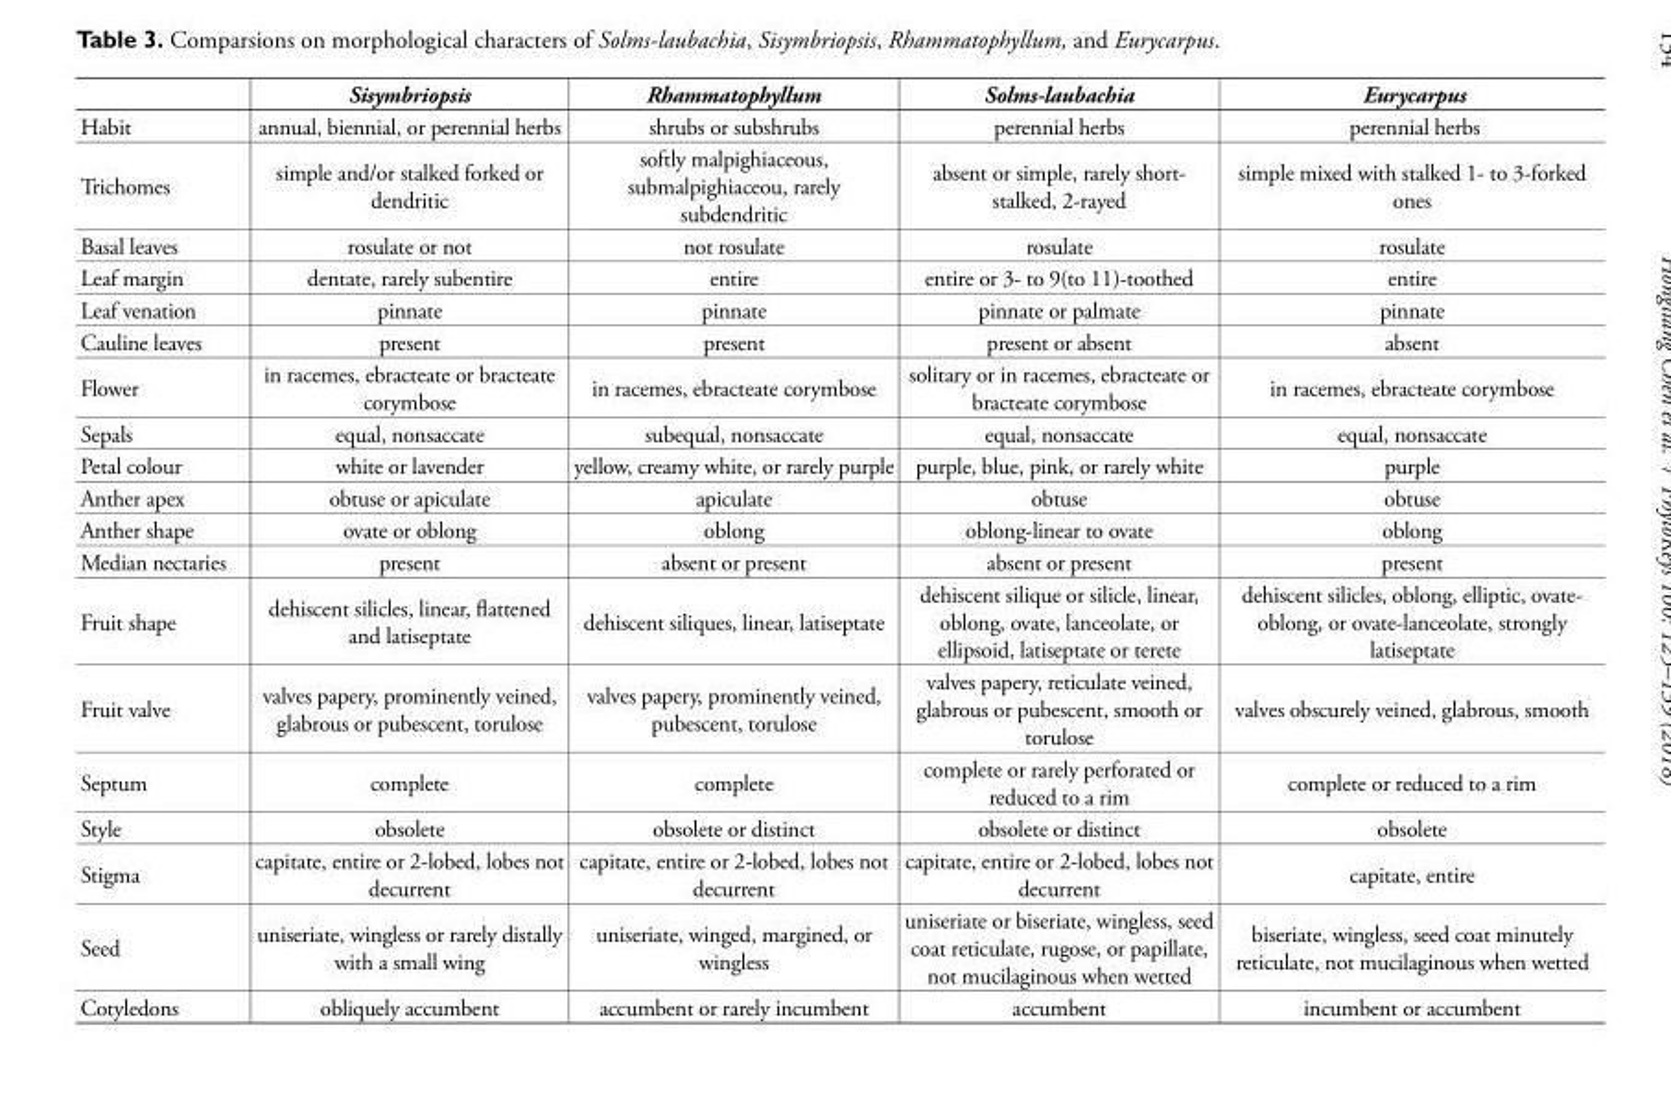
<table><thead><tr><td></td><td>Sisymbriopsis</td><td>Rhammatophyllum</td><td>Solms-laubachia</td><td>Eurycarpus</td></tr></thead><tbody><tr><td>Habit</td><td>annual, biennial, or perennial herbs</td><td>shrubs or subshrubs</td><td>perennial herbs</td><td>perennial herbs</td></tr><tr><td>Trichomes</td><td>simple and/or stalked forked or dendritic</td><td>softly malpighiaceous, submalpighiaceou, rarely subdendritic</td><td>absent or simple, rarely short- stalked, 2-rayed</td><td>simple mixed with stalked 1- to 3-forked ones</td></tr><tr><td>Basal leaves</td><td>rosulate or not</td><td>not rosulate</td><td>rosulate</td><td>rosulate</td></tr><tr><td>Leaf margin</td><td>dentate, rarely subentire</td><td>entire</td><td>entire or 3- to 9(to 11)-toothed</td><td>entire</td></tr><tr><td>Leaf venation</td><td>pinnate</td><td>pinnate</td><td>pinnate or palmate</td><td>pinnate</td></tr><tr><td>Cauline leaves</td><td>present</td><td>present</td><td>present or absent</td><td>absent</td></tr><tr><td>Flower</td><td>in racemes, ebracteate or bracteate corymbose</td><td>in racemes, ebracteate corymbose</td><td>solitary or in racemes, ebracteate or bracteate corymbose</td><td>in racemes, ebracteate corymbose</td></tr><tr><td>Sepals</td><td>equal, nonsaccate</td><td>subequal, nonsaccate</td><td>equal, nonsaccate</td><td>equal, nonsaccate</td></tr><tr><td>Petal colour</td><td>white or lavender</td><td>yellow, creamy white, or rarely purple</td><td>purple, blue, pink, or rarely white</td><td>purple</td></tr><tr><td>Anther apex</td><td>obtuse or apiculate</td><td>apiculate</td><td>obtuse</td><td>obtuse</td></tr><tr><td>Anther shape</td><td>ovate or oblong</td><td>oblong</td><td>oblong-linear to ovate</td><td>oblong</td></tr><tr><td>Median nectaries</td><td>present</td><td>absent or present</td><td>absent or present</td><td>present</td></tr><tr><td>Fruit shape</td><td>dehiscent silicles, linear, flattened and latiseptate</td><td>dehiscent siliques, linear, latiseptate</td><td>dehiscent silique or silicle, linear, oblong, ovate, lanceolate, or ellipsoid, latiseptate or terete</td><td>dehiscent silicles, oblong, elliptic, ovate- oblong, or ovate-lanceolate, strongly latiseptate</td></tr><tr><td>Fruit valve</td><td>valves papery, prominently veined, glabrous or pubescent, torulose</td><td>valves papery, prominently veined, pubescent, torulose</td><td>valves papery, reticulate veined, glabrous or pubescent, smooth or torulose</td><td>valves obscurely veined, glabrous, smooth</td></tr><tr><td>Septum</td><td>complete</td><td>complete</td><td>complete or rarely perforated or reduced to a rim</td><td>complete or reduced to a rim</td></tr><tr><td>Style</td><td>obsolete</td><td>obsolete or distinct</td><td>obsolete or distinct</td><td>obsolete</td></tr><tr><td>Stigma</td><td>capitate, entire or 2-lobed, lobes not decurrent</td><td>capitate, entire or 2-lobed, lobes not decurrent</td><td>capitate, entire or 2-lobed, lobes not decurrent</td><td>capitate, entire</td></tr><tr><td>Seed</td><td>uniseriate, wingless or rarely distally with a small wing</td><td>uniseriate, winged, margined, or wingless</td><td>uniseriate or biseriate, wingless, seed coat reticulate, rugose, or papillate, not mucilaginous when wetted</td><td>biseriate, wingless, seed coat minutely reticulate, not mucilaginous when wetted</td></tr><tr><td>Cotyledons</td><td>obliquely accumbent</td><td>accumbent or rarely incumbent</td><td>accumbent</td><td>incumbent or accumbent</td></tr></tbody></table>